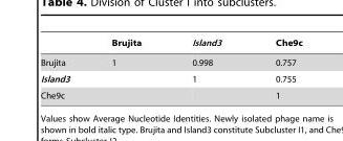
<table><thead><tr><td></td><td>Brujita</td><td>Island3</td><td>Che9c</td></tr></thead><tbody><tr><td>Brujita</td><td>1</td><td>0.998</td><td>0.757</td></tr><tr><td>Island3</td><td></td><td>1</td><td>0.755</td></tr><tr><td>Che9c</td><td></td><td></td><td>1</td></tr></tbody></table>